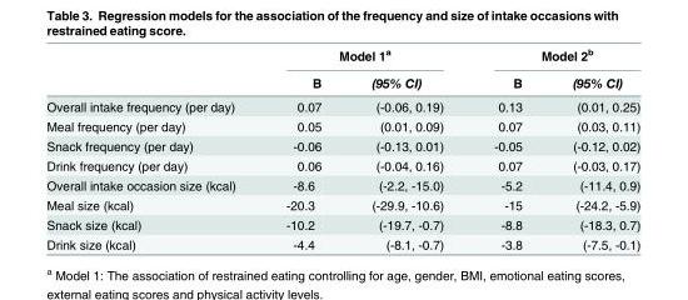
<table><thead><tr><td rowspan="2"></td><td colspan="2">Model 1<sup>a</sup></td><td colspan="2">Model 2<sup>b</sup></td></tr><tr><td>B</td><td>(95% CI)</td><td>B</td><td>(95% CI)</td></tr></thead><tbody><tr><td>Overall intake frequency (per day)</td><td>0.07</td><td>(-0.06, 0.19)</td><td>0.13</td><td>(0.01, 0.25)</td></tr><tr><td>Meal frequency (per day)</td><td>0.05</td><td>(0.01, 0.09)</td><td>0.07</td><td>(0.03, 0.11)</td></tr><tr><td>Snack frequency (per day)</td><td>-0.06</td><td>(-0.13, 0.01)</td><td>-0.05</td><td>(-0.12, 0.02)</td></tr><tr><td>Drink frequency (per day)</td><td>0.06</td><td>(-0.04, 0.16)</td><td>0.07</td><td>(-0.03, 0.17)</td></tr><tr><td>Overall intake occasion size (kcal)</td><td>-8.6</td><td>(-2.2, -15.0)</td><td>-5.2</td><td>(-11.4, 0.9)</td></tr><tr><td>Meal size (kcal)</td><td>-20.3</td><td>(-29.9, -10.6)</td><td>-15</td><td>(-24.2, -5.9)</td></tr><tr><td>Snack size (kcal)</td><td>-10.2</td><td>(-19.7, -0.7)</td><td>-8.8</td><td>(-18.3, 0.7)</td></tr><tr><td>Drink size (kcal)</td><td>-4.4</td><td>(-8.1, -0.7)</td><td>-3.8</td><td>(-7.5, -0.1)</td></tr></tbody></table>